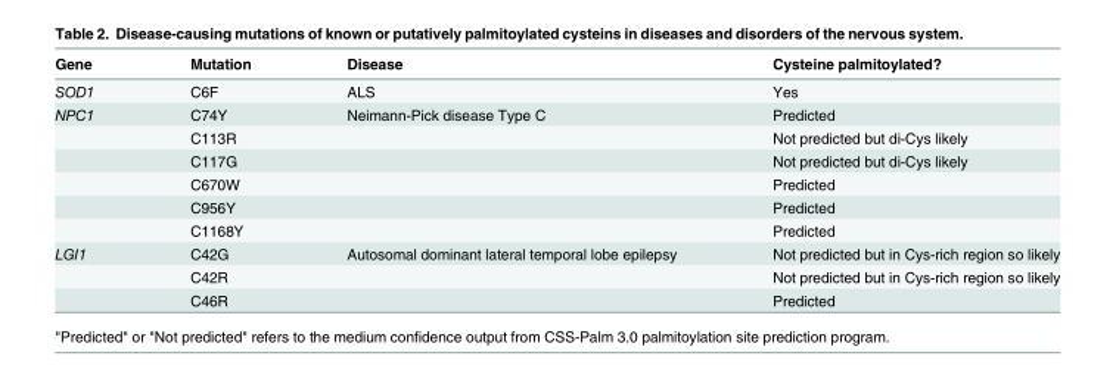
<table><thead><tr><td>Gene</td><td>Mutation</td><td>Disease</td><td>Cysteine palmitoylated?</td></tr></thead><tbody><tr><td>SOD1</td><td>C6F</td><td>ALS</td><td>Yes</td></tr><tr><td rowspan="6">NPC1</td><td>C74Y</td><td>Neimann-Pick disease Type C</td><td>Predicted</td></tr><tr><td>C113R</td><td></td><td>Not predicted but di-Cys likely</td></tr><tr><td>C117G</td><td></td><td>Not predicted but di-Cys likely</td></tr><tr><td>C670W</td><td></td><td>Predicted</td></tr><tr><td>C956Y</td><td></td><td>Predicted</td></tr><tr><td>C1168Y</td><td></td><td>Predicted</td></tr><tr><td rowspan="3">LGI1</td><td>C42G</td><td>Autosomal dominant lateral temporal lobe epilepsy</td><td>Not predicted but in Cys-rich region so likely</td></tr><tr><td>C42R</td><td></td><td>Not predicted but in Cys-rich region so likely</td></tr><tr><td>C46R</td><td></td><td>Predicted</td></tr></tbody></table>